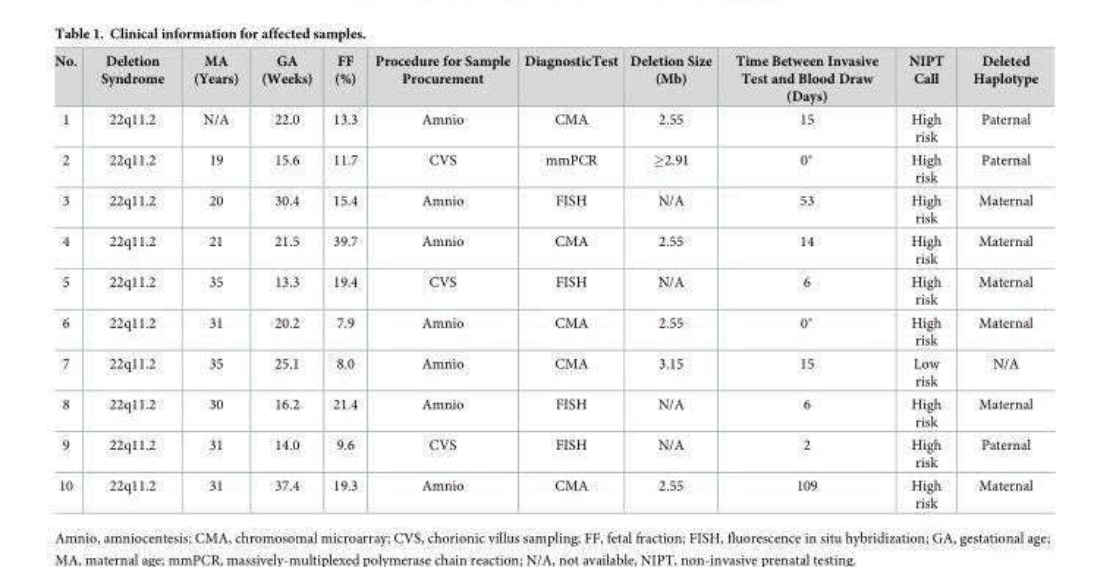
<table><thead><tr><td>No.</td><td>Deletion Syndrome</td><td>MA (Years)</td><td>GA (Weeks)</td><td>FF (%)</td><td>Procedure for Sample Procurement</td><td>DiagnosticTest</td><td>Deletion Size (Mb)</td><td>Time Between Invasive Test and Blood Draw (Days)</td><td>NIPT Call</td><td>Deleted Haplotype</td></tr></thead><tbody><tr><td>1</td><td>22q11.2</td><td>N/A</td><td>22.0</td><td>13.3</td><td>Amnio</td><td>CMA</td><td>2.55</td><td>15</td><td>High risk</td><td>Paternal</td></tr><tr><td>2</td><td>22q11.2</td><td>19</td><td>15.6</td><td>11.7</td><td>CVS</td><td>mmPCR</td><td>≥2.91</td><td>0*</td><td>High risk</td><td>Paternal</td></tr><tr><td>3</td><td>22q11.2</td><td>20</td><td>30.4</td><td>15.4</td><td>Amnio</td><td>FISH</td><td>N/A</td><td>53</td><td>High risk</td><td>Maternal</td></tr><tr><td>4</td><td>22q11.2</td><td>21</td><td>21.5</td><td>39.7</td><td>Amnio</td><td>CMA</td><td>2.55</td><td>14</td><td>High risk</td><td>Maternal</td></tr><tr><td>5</td><td>22q11.2</td><td>35</td><td>13.3</td><td>19.4</td><td>CVS</td><td>FISH</td><td>N/A</td><td>6</td><td>High risk</td><td>Maternal</td></tr><tr><td>6</td><td>22q11.2</td><td>31</td><td>20.2</td><td>7.9</td><td>Amnio</td><td>CMA</td><td>2.55</td><td>0*</td><td>High risk</td><td>Maternal</td></tr><tr><td>7</td><td>22q11.2</td><td>35</td><td>25.1</td><td>8.0</td><td>Amnio</td><td>CMA</td><td>3.15</td><td>15</td><td>Low risk</td><td>N/A</td></tr><tr><td>8</td><td>22q11.2</td><td>30</td><td>16.2</td><td>21.4</td><td>Amnio</td><td>FISH</td><td>N/A</td><td>6</td><td>High risk</td><td>Maternal</td></tr><tr><td>9</td><td>22q11.2</td><td>31</td><td>14.0</td><td>9.6</td><td>CVS</td><td>FISH</td><td>N/A</td><td>2</td><td>High risk</td><td>Paternal</td></tr><tr><td>10</td><td>22q11.2</td><td>31</td><td>37.4</td><td>19.3</td><td>Amnio</td><td>CMA</td><td>2.55</td><td>109</td><td>High risk</td><td>Maternal</td></tr></tbody></table>